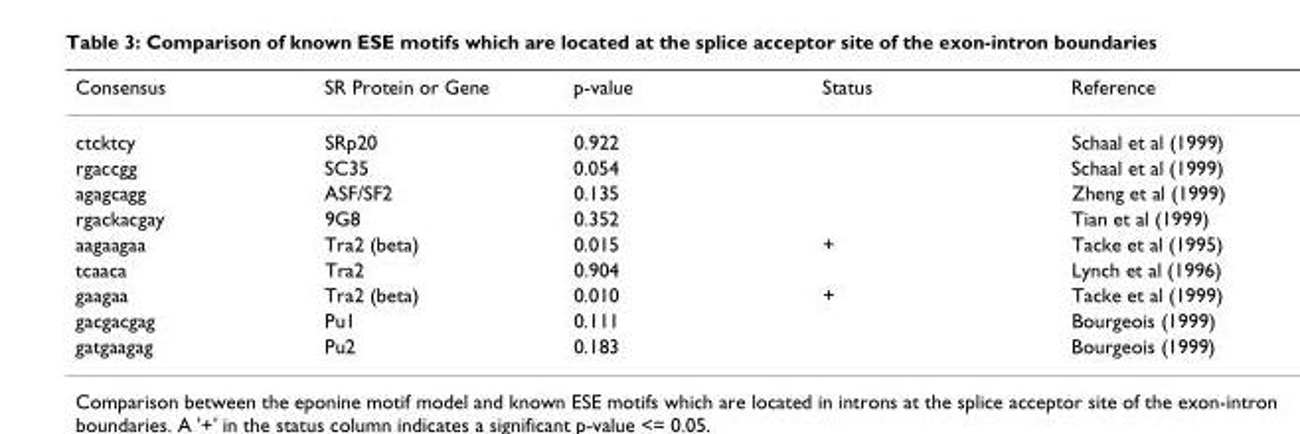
<table><thead><tr><td>Consensus</td><td>SR Protein or Gene</td><td>p-value</td><td>Status</td><td>Reference</td></tr></thead><tbody><tr><td>ctcktcy</td><td>SRp20</td><td>0.922</td><td></td><td>Schaal et al (1999)</td></tr><tr><td>rgaccgg</td><td>SC35</td><td>0.054</td><td></td><td>Schaal et al (1999)</td></tr><tr><td>agagcagg</td><td>ASF/SF2</td><td>0.135</td><td></td><td>Zheng et al (1999)</td></tr><tr><td>rgackacgay</td><td>9G8</td><td>0.352</td><td></td><td>Tian et al (1999)</td></tr><tr><td>aagaagaa</td><td>Tra2 (beta)</td><td>0.015</td><td>+</td><td>Tacke et al (1995)</td></tr><tr><td>tcaaca</td><td>Tra2</td><td>0.904</td><td></td><td>Lynch et al (1996)</td></tr><tr><td>gaagaa</td><td>Tra2 (beta)</td><td>0.010</td><td>+</td><td>Tacke et al (1999)</td></tr><tr><td>gacgacgag</td><td>Pu1</td><td>0.111</td><td></td><td>Bourgeois (1999)</td></tr><tr><td>gatgaagag</td><td>Pu2</td><td>0.183</td><td></td><td>Bourgeois (1999)</td></tr></tbody></table>